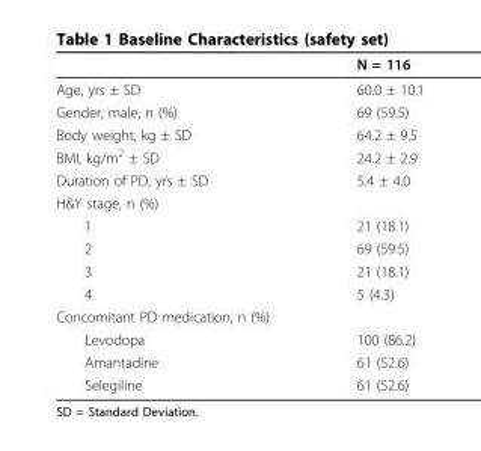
<table><thead><tr><td></td><td>N = 116</td></tr></thead><tbody><tr><td>Age, yrs ± SD</td><td>60.0 ± 10.1</td></tr><tr><td>Gender, male, n (%)</td><td>69 (59.5)</td></tr><tr><td>Body weight, kg ± SD</td><td>64.2 ± 9.5</td></tr><tr><td>BMI, kg/m<sup>2</sup> ± SD</td><td>24.2 ± 2.9</td></tr><tr><td>Duration of PD, yrs ± SD</td><td>5.4 ± 4.0</td></tr><tr><td colspan="2">H&amp;Y stage, n (%)</td></tr><tr><td>1</td><td>21 (18.1)</td></tr><tr><td>2</td><td>69 (59.5)</td></tr><tr><td>3</td><td>21 (18.1)</td></tr><tr><td>4</td><td>5 (4.3)</td></tr><tr><td colspan="2">Concomitant PD medication, n (%)</td></tr><tr><td>Levodopa</td><td>100 (86.2)</td></tr><tr><td>Amantadine</td><td>61 (52.6)</td></tr><tr><td>Selegiline</td><td>61 (52.6)</td></tr></tbody></table>